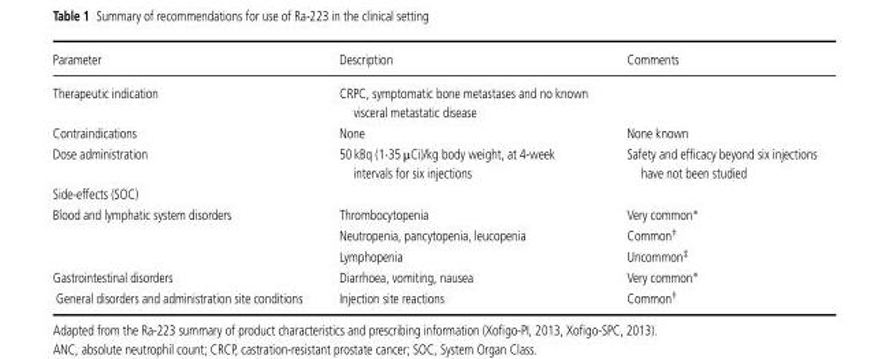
<table><thead><tr><td>Parameter</td><td>Description</td><td>Comments</td></tr></thead><tbody><tr><td>Therapeutic indication</td><td>CRPC, symptomatic bone metastases and no known visceral metastatic disease</td><td></td></tr><tr><td>Contraindications</td><td>None</td><td>None known</td></tr><tr><td>Dose administration</td><td>50 kBq (1⋅35 μCi)/kg body weight, at 4-week intervals for six injections</td><td>Safety and efficacy beyond six injections have not been studied</td></tr><tr><td colspan="3">Side-effects (SOC)</td></tr><tr><td rowspan="3">Blood and lymphatic system disorders</td><td>Thrombocytopenia</td><td>Very common∗</td></tr><tr><td>Neutropenia, pancytopenia, leucopenia</td><td>Common†</td></tr><tr><td>Lymphopenia</td><td>Uncommon‡</td></tr><tr><td>Gastrointestinal disorders</td><td>Diarrhoea, vomiting, nausea</td><td>Very common∗</td></tr><tr><td>General disorders and administration site conditions</td><td>Injection site reactions</td><td>Common†</td></tr></tbody></table>